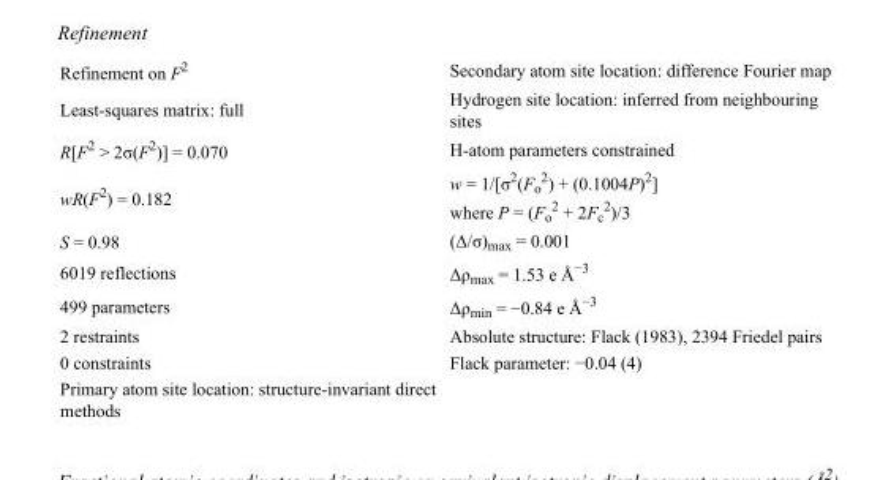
<table><tbody><tr><td>Refinement on F<sup>2</sup></td><td>Secondary atom site location: difference Fourier map</td></tr><tr><td>Least-squares matrix: full</td><td>Hydrogen site location: inferred from neighbouring sites</td></tr><tr><td>R[F<sup>2</sup> &gt; 2σ(F<sup>2</sup>)] = 0.070</td><td>H-atom parameters constrained</td></tr><tr><td>wR(F<sup>2</sup>) = 0.182</td><td>w = 1/[σ<sup>2</sup>(F<sub>o</sub> <sup>2</sup>) + (0.1004P)<sup>2</sup>] where P = (F<sub>o</sub> <sup>2</sup> + 2F<sub>c</sub> <sup>2</sup>)/3</td></tr><tr><td>S = 0.98</td><td>(Δ/σ)<sub>max</sub> = 0.001</td></tr><tr><td>6019 reflections</td><td>Δρ<sub>max</sub> = 1.53 e Å<sup>−3</sup></td></tr><tr><td>499 parameters</td><td>Δρ<sub>min</sub> = −0.84 e Å<sup>−3</sup></td></tr><tr><td>2 restraints</td><td>Absolute structure: Flack (1983), 2394 Friedel pairs</td></tr><tr><td>0 constraints</td><td>Flack parameter: −0.04 (4)</td></tr><tr><td>Primary atom site location: structure-invariant direct methods</td><td></td></tr></tbody></table>